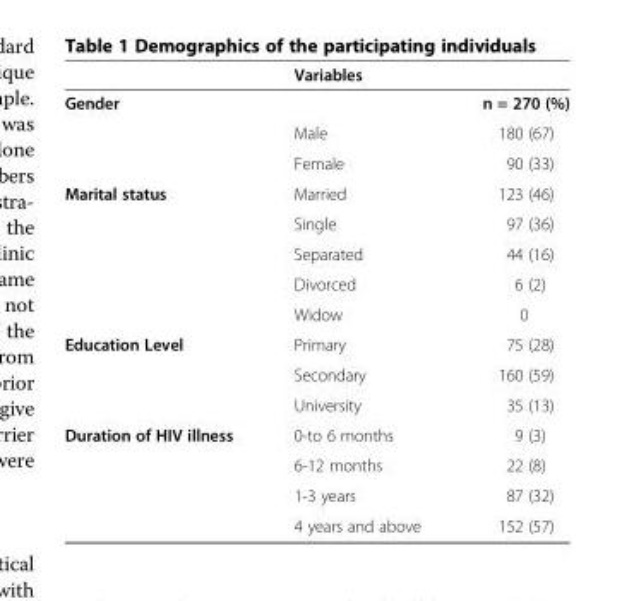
<table><thead><tr><td></td><td>Variables</td><td></td></tr></thead><tbody><tr><td rowspan="3">Gender</td><td></td><td>n = 270 (%)</td></tr><tr><td>Male</td><td>180 (67)</td></tr><tr><td>Female</td><td>90 (33)</td></tr><tr><td rowspan="5">Marital status</td><td>Married</td><td>123 (46)</td></tr><tr><td>Single</td><td>97 (36)</td></tr><tr><td>Separated</td><td>44 (16)</td></tr><tr><td>Divorced</td><td>6 (2)</td></tr><tr><td>Widow</td><td>0</td></tr><tr><td rowspan="3">Education Level</td><td>Primary</td><td>75 (28)</td></tr><tr><td>Secondary</td><td>160 (59)</td></tr><tr><td>University</td><td>35 (13)</td></tr><tr><td rowspan="4">Duration of HIV illness</td><td>0-to 6 months</td><td>9 (3)</td></tr><tr><td>6-12 months</td><td>22 (8)</td></tr><tr><td>1-3 years</td><td>87 (32)</td></tr><tr><td>4 years and above</td><td>152 (57)</td></tr></tbody></table>